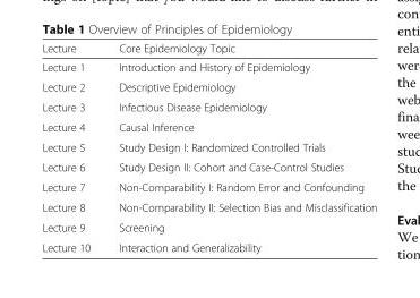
<table><thead><tr><td>Lecture</td><td>Core Epidemiology Topic</td></tr></thead><tbody><tr><td>Lecture 1</td><td>Introduction and History of Epidemiology</td></tr><tr><td>Lecture 2</td><td>Descriptive Epidemiology</td></tr><tr><td>Lecture 3</td><td>Infectious Disease Epidemiology</td></tr><tr><td>Lecture 4</td><td>Causal Inference</td></tr><tr><td>Lecture 5</td><td>Study Design I: Randomized Controlled Trials</td></tr><tr><td>Lecture 6</td><td>Study Design II: Cohort and Case-Control Studies</td></tr><tr><td>Lecture 7</td><td>Non-Comparability I: Random Error and Confounding</td></tr><tr><td>Lecture 8</td><td>Non-Comparability II: Selection Bias and Misclassification</td></tr><tr><td>Lecture 9</td><td>Screening</td></tr><tr><td>Lecture 10</td><td>Interaction and Generalizability</td></tr></tbody></table>